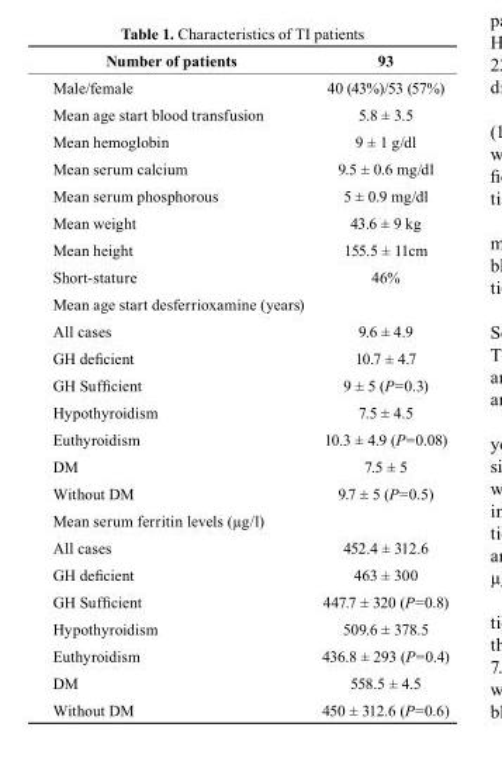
<table><thead><tr><td>Number of patients</td><td>93</td></tr></thead><tbody><tr><td>Male/female</td><td>40 (43%)/53 (57%)</td></tr><tr><td>Mean age start blood transfusion</td><td>5.8 ± 3.5</td></tr><tr><td>Mean hemoglobin</td><td>9 ± 1 g/dl</td></tr><tr><td>Mean serum calcium</td><td>9.5 ± 0.6 mg/dl</td></tr><tr><td>Mean serum phosphorous</td><td>5 ± 0.9 mg/dl</td></tr><tr><td>Mean weight</td><td>43.6 ± 9 kg</td></tr><tr><td>Mean height</td><td>155.5 ± 11cm</td></tr><tr><td>Short-stature</td><td>46%</td></tr><tr><td colspan="2">Mean age start desferrioxamine (years)</td></tr><tr><td>All cases</td><td>9.6 ± 4.9</td></tr><tr><td>GH deficient</td><td>10.7 ± 4.7</td></tr><tr><td>GH Sufficient</td><td>9 ± 5 (P=0.3)</td></tr><tr><td>Hypothyroidism</td><td>7.5 ± 4.5</td></tr><tr><td>Euthyroidism</td><td>10.3 ± 4.9 (P=0.08)</td></tr><tr><td>DM</td><td>7.5 ± 5</td></tr><tr><td>Without DM</td><td>9.7 ± 5 (P=0.5)</td></tr><tr><td colspan="2">Mean serum ferritin levels (µg/l)</td></tr><tr><td>All cases</td><td>452.4 ± 312.6</td></tr><tr><td>GH deficient</td><td>463 ± 300</td></tr><tr><td>GH Sufficient</td><td>447.7 ± 320 (P=0.8)</td></tr><tr><td>Hypothyroidism</td><td>509.6 ± 378.5</td></tr><tr><td>Euthyroidism</td><td>436.8 ± 293 (P=0.4)</td></tr><tr><td>DM</td><td>558.5 ± 4.5</td></tr><tr><td>Without DM</td><td>450 ± 312.6 (P=0.6)</td></tr></tbody></table>